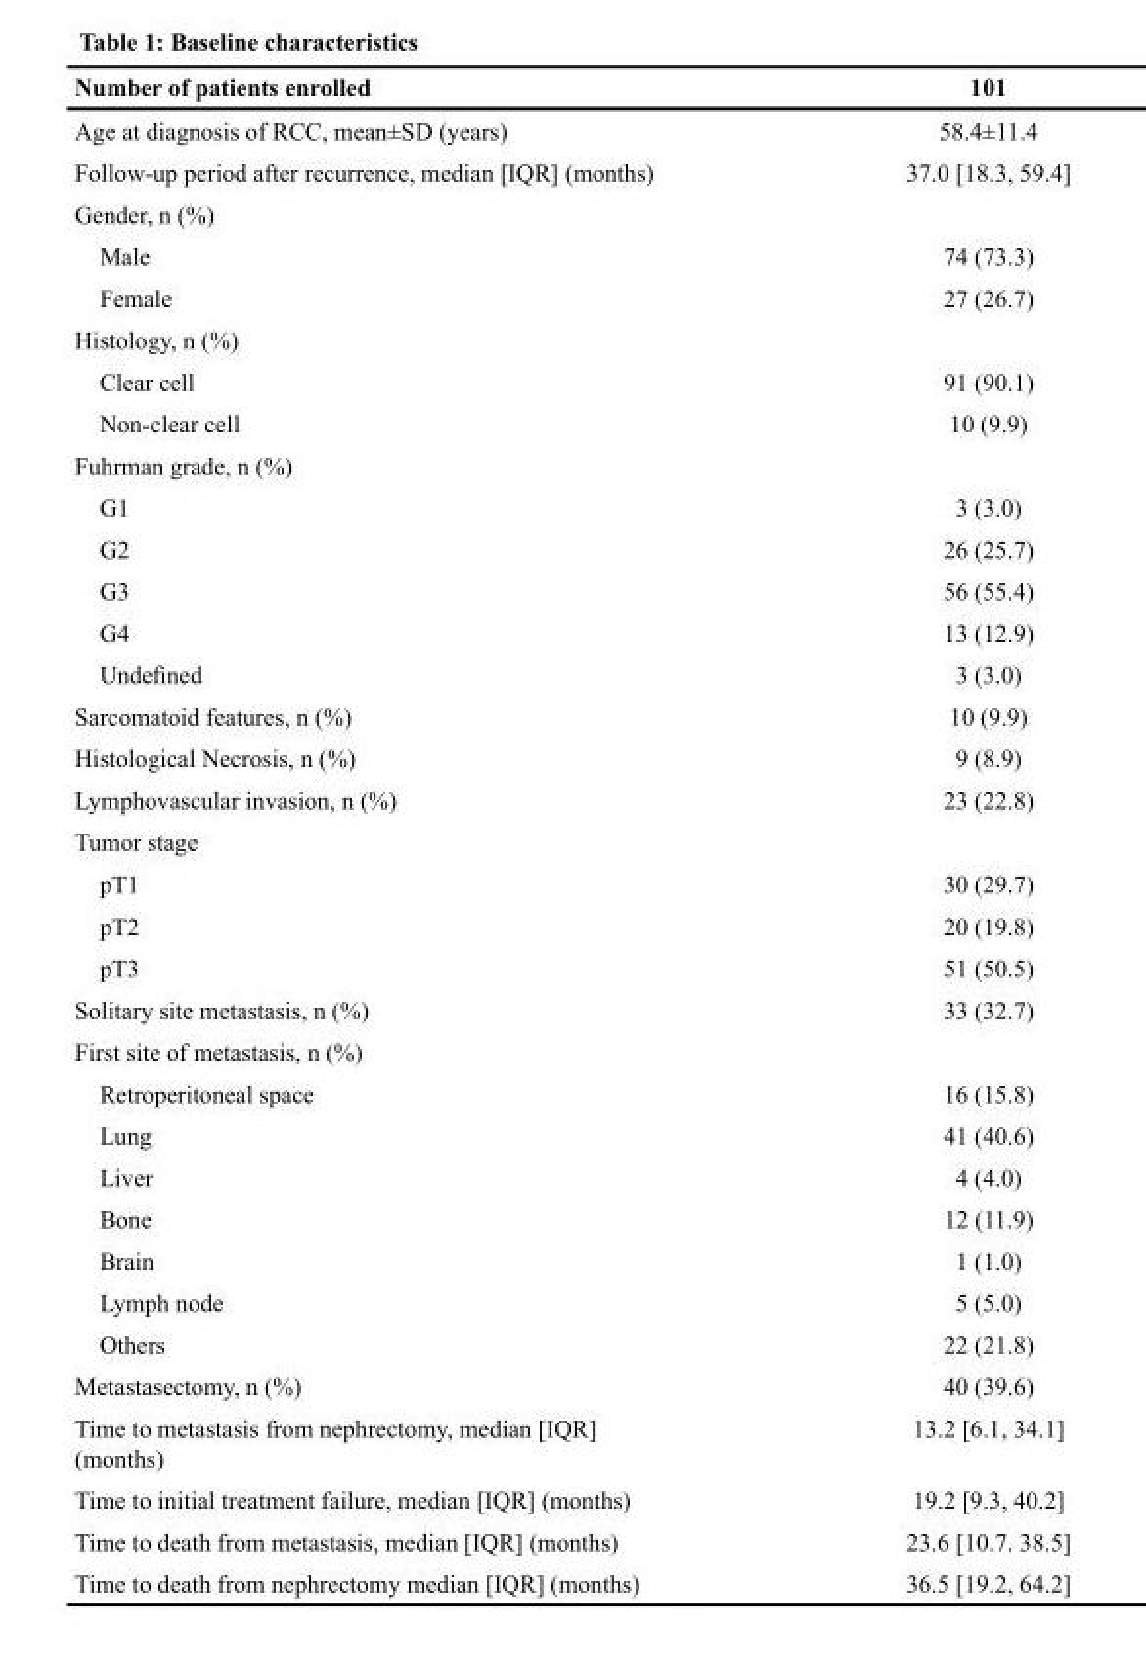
<table><thead><tr><td>Number of patients enrolled</td><td>101</td></tr></thead><tbody><tr><td>Age at diagnosis of RCC, mean±SD (years)</td><td>58.4±11.4</td></tr><tr><td>Follow-up period after recurrence, median [IQR] (months)</td><td>37.0 [18.3, 59.4]</td></tr><tr><td colspan="2">Gender, n (%)</td></tr><tr><td>Male</td><td>74 (73.3)</td></tr><tr><td>Female</td><td>27 (26.7)</td></tr><tr><td colspan="2">Histology, n (%)</td></tr><tr><td>Clear cell</td><td>91 (90.1)</td></tr><tr><td>Non-clear cell</td><td>10 (9.9)</td></tr><tr><td colspan="2">Fuhrman grade, n (%)</td></tr><tr><td>G1</td><td>3 (3.0)</td></tr><tr><td>G2</td><td>26 (25.7)</td></tr><tr><td>G3</td><td>56 (55.4)</td></tr><tr><td>G4</td><td>13 (12.9)</td></tr><tr><td>Undefined</td><td>3 (3.0)</td></tr><tr><td>Sarcomatoid features, n (%)</td><td>10 (9.9)</td></tr><tr><td>Histological Necrosis, n (%)</td><td>9 (8.9)</td></tr><tr><td>Lymphovascular invasion, n (%)</td><td>23 (22.8)</td></tr><tr><td colspan="2">Tumor stage</td></tr><tr><td>pT1</td><td>30 (29.7)</td></tr><tr><td>pT2</td><td>20 (19.8)</td></tr><tr><td>pT3</td><td>51 (50.5)</td></tr><tr><td>Solitary site metastasis, n (%)</td><td>33 (32.7)</td></tr><tr><td colspan="2">First site of metastasis, n (%)</td></tr><tr><td>Retroperitoneal space</td><td>16 (15.8)</td></tr><tr><td>Lung</td><td>41 (40.6)</td></tr><tr><td>Liver</td><td>4 (4.0)</td></tr><tr><td>Bone</td><td>12 (11.9)</td></tr><tr><td>Brain</td><td>1 (1.0)</td></tr><tr><td>Lymph node</td><td>5 (5.0)</td></tr><tr><td>Others</td><td>22 (21.8)</td></tr><tr><td>Metastasectomy, n (%)</td><td>40 (39.6)</td></tr><tr><td>Time to metastasis from nephrectomy, median [IQR] (months)</td><td>13.2 [6.1, 34.1]</td></tr><tr><td>Time to initial treatment failure, median [IQR] (months)</td><td>19.2 [9.3, 40.2]</td></tr><tr><td>Time to death from metastasis, median [IQR] (months)</td><td>23.6 [10.7. 38.5]</td></tr><tr><td>Time to death from nephrectomy median [IQR] (months)</td><td>36.5 [19.2, 64.2]</td></tr></tbody></table>